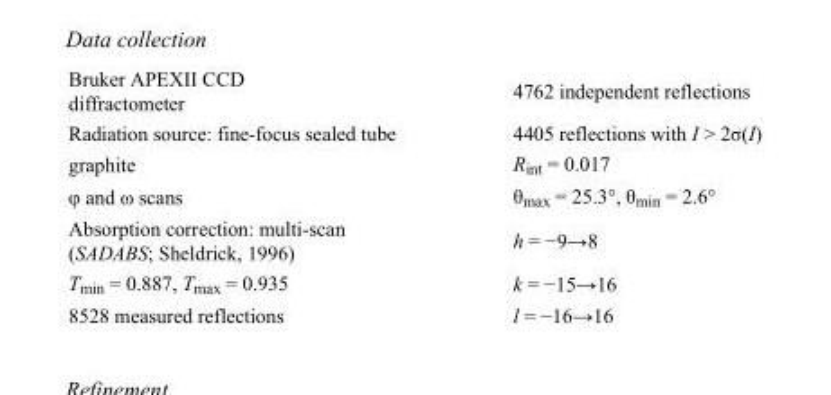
<table><tbody><tr><td>Bruker APEXII CCD diffractometer</td><td>4762 independent reflections</td></tr><tr><td>Radiation source: fine-focus sealed tube</td><td>4405 reflections with I &gt; 2σ(I)</td></tr><tr><td>graphite</td><td>R<sub>int</sub> = 0.017</td></tr><tr><td>φ and ω scans</td><td>θ<sub>max</sub> = 25.3°, θ<sub>min</sub> = 2.6°</td></tr><tr><td>Absorption correction: multi-scan (SADABS; Sheldrick, 1996)</td><td>h = −9→8</td></tr><tr><td>T<sub>min</sub> = 0.887, T<sub>max</sub> = 0.935</td><td>k = −15→16</td></tr><tr><td>8528 measured reflections</td><td>l = −16→16</td></tr></tbody></table>